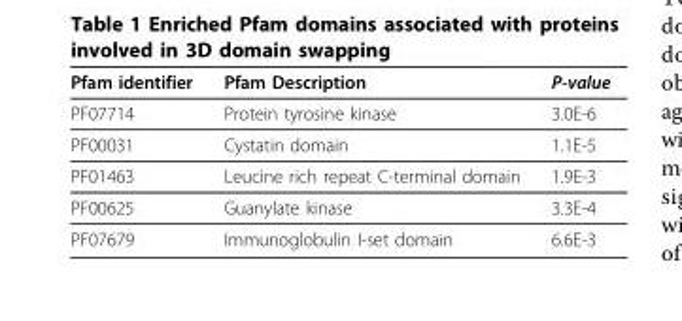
<table><thead><tr><td>Pfam identifier</td><td>Pfam Description</td><td>P-value</td></tr></thead><tbody><tr><td>PF07714</td><td>Protein tyrosine kinase</td><td>3.0E-6</td></tr><tr><td>PF00031</td><td>Cystatin domain</td><td>1.1E-5</td></tr><tr><td>PF01463</td><td>Leucine rich repeat C-terminal domain</td><td>1.9E-3</td></tr><tr><td>PF00625</td><td>Guanylate kinase</td><td>3.3E-4</td></tr><tr><td>PF07679</td><td>Immunoglobulin I-set domain</td><td>6.6E-3</td></tr></tbody></table>